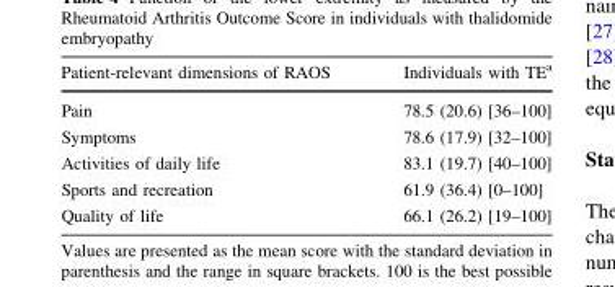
<table><thead><tr><td>Patient-relevant dimensions of RAOS</td><td>Individuals with TE<sup>a</sup></td></tr></thead><tbody><tr><td>Pain</td><td>78.5 (20.6) [36–100]</td></tr><tr><td>Symptoms</td><td>78.6 (17.9) [32–100]</td></tr><tr><td>Activities of daily life</td><td>83.1 (19.7) [40–100]</td></tr><tr><td>Sports and recreation</td><td>61.9 (36.4) [0–100]</td></tr><tr><td>Quality of life</td><td>66.1 (26.2) [19–100]</td></tr></tbody></table>